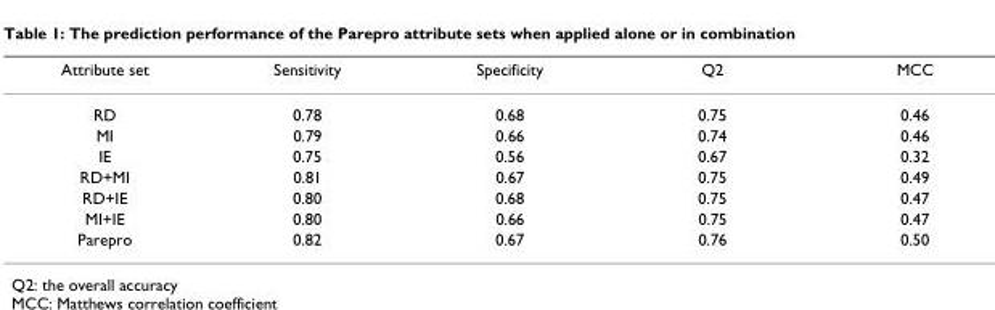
<table><thead><tr><td>Attribute set</td><td>Sensitivity</td><td>Specificity</td><td>Q2</td><td>MCC</td></tr></thead><tbody><tr><td>RD</td><td>0.78</td><td>0.68</td><td>0.75</td><td>0.46</td></tr><tr><td>MI</td><td>0.79</td><td>0.66</td><td>0.74</td><td>0.46</td></tr><tr><td>IE</td><td>0.75</td><td>0.56</td><td>0.67</td><td>0.32</td></tr><tr><td>RD+MI</td><td>0.81</td><td>0.67</td><td>0.75</td><td>0.49</td></tr><tr><td>RD+IE</td><td>0.80</td><td>0.68</td><td>0.75</td><td>0.47</td></tr><tr><td>MI+IE</td><td>0.80</td><td>0.66</td><td>0.75</td><td>0.47</td></tr><tr><td>Parepro</td><td>0.82</td><td>0.67</td><td>0.76</td><td>0.50</td></tr></tbody></table>